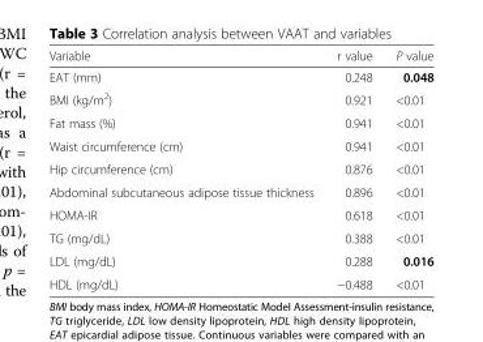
<table><thead><tr><td>Variable</td><td>r value</td><td>P value</td></tr></thead><tbody><tr><td>EAT (mm)</td><td>0.248</td><td>0.048</td></tr><tr><td>BMI (kg/m<sup>2</sup>)</td><td>0.921</td><td>&lt;0.01</td></tr><tr><td>Fat mass (%)</td><td>0.941</td><td>&lt;0.01</td></tr><tr><td>Waist circumference (cm)</td><td>0.941</td><td>&lt;0.01</td></tr><tr><td>Hip circumference (cm)</td><td>0.876</td><td>&lt;0.01</td></tr><tr><td>Abdominal subcutaneous adipose tissue thickness</td><td>0.896</td><td>&lt;0.01</td></tr><tr><td>HOMA-IR</td><td>0.618</td><td>&lt;0.01</td></tr><tr><td>TG (mg/dL)</td><td>0.388</td><td>&lt;0.01</td></tr><tr><td>LDL (mg/dL)</td><td>0.288</td><td>0.016</td></tr><tr><td>HDL (mg/dL)</td><td>−0.488</td><td>&lt;0.01</td></tr></tbody></table>